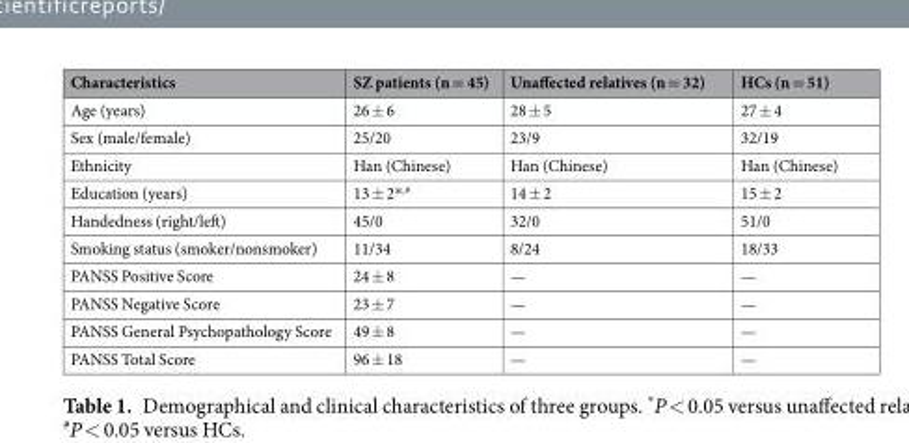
<table><thead><tr><td>Characteristics</td><td>SZ patients (n = 45)</td><td>Unaffected relatives (n = 32)</td><td>HCs (n = 51)</td></tr></thead><tbody><tr><td>Age (years)</td><td>26 ± 6</td><td>28 ± 5</td><td>27 ± 4</td></tr><tr><td>Sex (male/female)</td><td>25/20</td><td>23/9</td><td>32/19</td></tr><tr><td>Ethnicity</td><td>Han (Chinese)</td><td>Han (Chinese)</td><td>Han (Chinese)</td></tr><tr><td>Education (years)</td><td>13 ± 2*<sup>,#</sup></td><td>14 ± 2</td><td>15 ± 2</td></tr><tr><td>Handedness (right/left)</td><td>45/0</td><td>32/0</td><td>51/0</td></tr><tr><td>Smoking status (smoker/nonsmoker)</td><td>11/34</td><td>8/24</td><td>18/33</td></tr><tr><td>PANSS Positive Score</td><td>24 ± 8</td><td>—</td><td>—</td></tr><tr><td>PANSS Negative Score</td><td>23 ± 7</td><td>—</td><td>—</td></tr><tr><td>PANSS General Psychopathology Score</td><td>49 ± 8</td><td>—</td><td>—</td></tr><tr><td>PANSS Total Score</td><td>96 ± 18</td><td>—</td><td>—</td></tr></tbody></table>